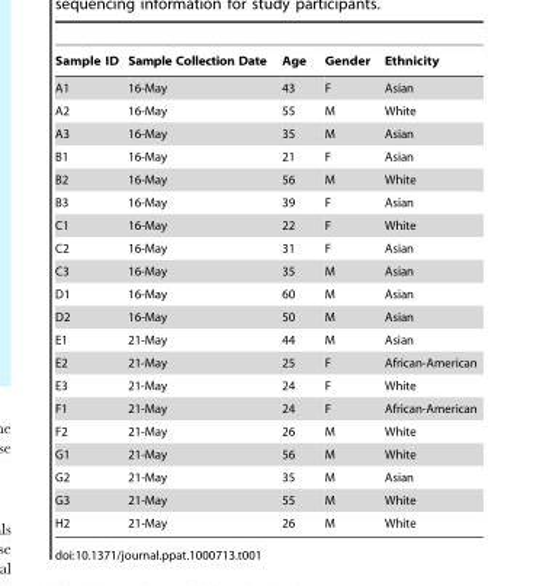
<table><thead><tr><td>Sample ID</td><td>Sample Collection Date</td><td>Age</td><td>Gender</td><td>Ethnicity</td></tr></thead><tbody><tr><td>A1</td><td>16-May</td><td>43</td><td>F</td><td>Asian</td></tr><tr><td>A2</td><td>16-May</td><td>55</td><td>M</td><td>White</td></tr><tr><td>A3</td><td>16-May</td><td>35</td><td>M</td><td>Asian</td></tr><tr><td>B1</td><td>16-May</td><td>21</td><td>F</td><td>Asian</td></tr><tr><td>B2</td><td>16-May</td><td>56</td><td>M</td><td>White</td></tr><tr><td>B3</td><td>16-May</td><td>39</td><td>F</td><td>Asian</td></tr><tr><td>C1</td><td>16-May</td><td>22</td><td>F</td><td>White</td></tr><tr><td>C2</td><td>16-May</td><td>31</td><td>F</td><td>Asian</td></tr><tr><td>C3</td><td>16-May</td><td>35</td><td>M</td><td>Asian</td></tr><tr><td>D1</td><td>16-May</td><td>60</td><td>M</td><td>Asian</td></tr><tr><td>D2</td><td>16-May</td><td>50</td><td>M</td><td>Asian</td></tr><tr><td>E1</td><td>21-May</td><td>44</td><td>M</td><td>Asian</td></tr><tr><td>E2</td><td>21-May</td><td>25</td><td>F</td><td>African-American</td></tr><tr><td>E3</td><td>21-May</td><td>24</td><td>F</td><td>White</td></tr><tr><td>F1</td><td>21-May</td><td>24</td><td>F</td><td>African-American</td></tr><tr><td>F2</td><td>21-May</td><td>26</td><td>M</td><td>White</td></tr><tr><td>G1</td><td>21-May</td><td>56</td><td>M</td><td>White</td></tr><tr><td>G2</td><td>21-May</td><td>35</td><td>M</td><td>Asian</td></tr><tr><td>G3</td><td>21-May</td><td>55</td><td>M</td><td>White</td></tr><tr><td>H2</td><td>21-May</td><td>26</td><td>M</td><td>White</td></tr></tbody></table>